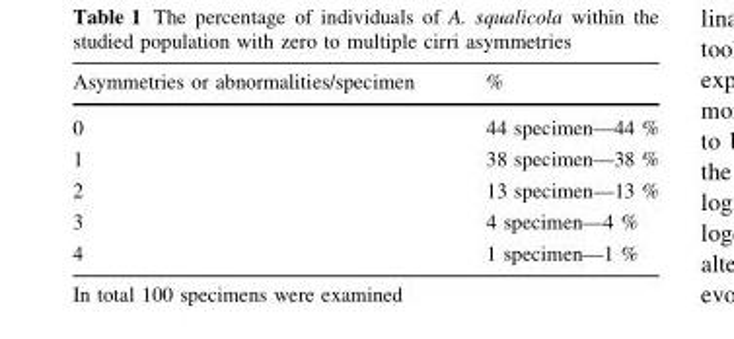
<table><thead><tr><td>Asymmetries or abnormalities/specimen</td><td>%</td></tr></thead><tbody><tr><td>0</td><td>44 specimen—44 %</td></tr><tr><td>1</td><td>38 specimen—38 %</td></tr><tr><td>2</td><td>13 specimen—13 %</td></tr><tr><td>3</td><td>4 specimen—4 %</td></tr><tr><td>4</td><td>1 specimen—1 %</td></tr></tbody></table>